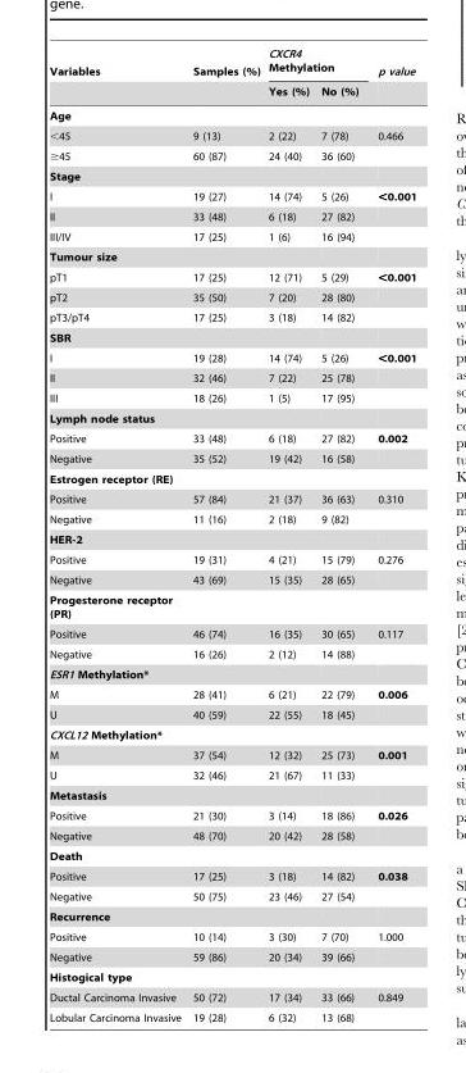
<table><thead><tr><td rowspan="2">Variables</td><td rowspan="2">Samples (%)</td><td colspan="2">CXCR4 Methylation</td><td rowspan="2">p value</td></tr><tr><td>Yes (%)</td><td>No (%)</td></tr></thead><tbody><tr><td colspan="5">Age</td></tr><tr><td>&lt;45</td><td>9 (13)</td><td>2 (22)</td><td>7 (78)</td><td>0.466</td></tr><tr><td>≥45</td><td>60 (87)</td><td>24 (40)</td><td>36 (60)</td><td></td></tr><tr><td colspan="5">Stage</td></tr><tr><td>I</td><td>19 (27)</td><td>14 (74)</td><td>5 (26)</td><td>&lt;0.001</td></tr><tr><td>II</td><td>33 (48)</td><td>6 (18)</td><td>27 (82)</td><td></td></tr><tr><td>III/IV</td><td>17 (25)</td><td>1 (6)</td><td>16 (94)</td><td></td></tr><tr><td colspan="5">Tumour size</td></tr><tr><td>pT1</td><td>17 (25)</td><td>12 (71)</td><td>5 (29)</td><td>&lt;0.001</td></tr><tr><td>pT2</td><td>35 (50)</td><td>7 (20)</td><td>28 (80)</td><td></td></tr><tr><td>pT3/pT4</td><td>17 (25)</td><td>3 (18)</td><td>14 (82)</td><td></td></tr><tr><td colspan="5">SBR</td></tr><tr><td>I</td><td>19 (28)</td><td>14 (74)</td><td>5 (26)</td><td>&lt;0.001</td></tr><tr><td>II</td><td>32 (46)</td><td>7 (22)</td><td>25 (78)</td><td></td></tr><tr><td>III</td><td>18 (26)</td><td>1 (5)</td><td>17 (95)</td><td></td></tr><tr><td colspan="5">Lymph node status</td></tr><tr><td>Positive</td><td>33 (48)</td><td>6 (18)</td><td>27 (82)</td><td>0.002</td></tr><tr><td>Negative</td><td>35 (52)</td><td>19 (42)</td><td>16 (58)</td><td></td></tr><tr><td colspan="5">Estrogen receptor (RE)</td></tr><tr><td>Positive</td><td>57 (84)</td><td>21 (37)</td><td>36 (63)</td><td>0.310</td></tr><tr><td>Negative</td><td>11 (16)</td><td>2 (18)</td><td>9 (82)</td><td></td></tr><tr><td colspan="5">HER-2</td></tr><tr><td>Positive</td><td>19 (31)</td><td>4 (21)</td><td>15 (79)</td><td>0.276</td></tr><tr><td>Negative</td><td>43 (69)</td><td>15 (35)</td><td>28 (65)</td><td></td></tr><tr><td colspan="5">Progesterone receptor (PR)</td></tr><tr><td>Positive</td><td>46 (74)</td><td>16 (35)</td><td>30 (65)</td><td>0.117</td></tr><tr><td>Negative</td><td>16 (26)</td><td>2 (12)</td><td>14 (88)</td><td></td></tr><tr><td colspan="5">ESR1 Methylation*</td></tr><tr><td>M</td><td>28 (41)</td><td>6 (21)</td><td>22 (79)</td><td>0.006</td></tr><tr><td>U</td><td>40 (59)</td><td>22 (55)</td><td>18 (45)</td><td></td></tr><tr><td colspan="5">CXCL12 Methylation*</td></tr><tr><td>M</td><td>37 (54)</td><td>12 (32)</td><td>25 (73)</td><td>0.001</td></tr><tr><td>U</td><td>32 (46)</td><td>21 (67)</td><td>11 (33)</td><td></td></tr><tr><td colspan="5">Metastasis</td></tr><tr><td>Positive</td><td>21 (30)</td><td>3 (14)</td><td>18 (86)</td><td>0.026</td></tr><tr><td>Negative</td><td>48 (70)</td><td>20 (42)</td><td>28 (58)</td><td></td></tr><tr><td colspan="5">Death</td></tr><tr><td>Positive</td><td>17 (25)</td><td>3 (18)</td><td>14 (82)</td><td>0.038</td></tr><tr><td>Negative</td><td>50 (75)</td><td>23 (46)</td><td>27 (54)</td><td></td></tr><tr><td colspan="5">Recurrence</td></tr><tr><td>Positive</td><td>10 (14)</td><td>3 (30)</td><td>7 (70)</td><td>1.000</td></tr><tr><td>Negative</td><td>59 (86)</td><td>20 (34)</td><td>39 (66)</td><td></td></tr><tr><td colspan="5">Histogical type</td></tr><tr><td>Ductal Carcinoma Invasive</td><td>50 (72)</td><td>17 (34)</td><td>33 (66)</td><td>0.849</td></tr><tr><td>Lobular Carcinoma Invasive</td><td>19 (28)</td><td>6 (32)</td><td>13 (68)</td><td></td></tr></tbody></table>